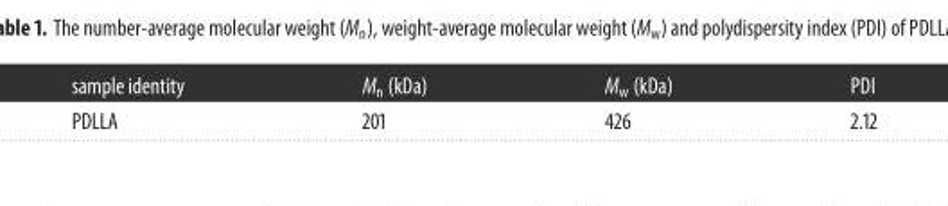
<table><thead><tr><td>sample identity</td><td>M<sub>n</sub> (kDa)</td><td>M<sub>w</sub> (kDa)</td><td>PDI</td></tr></thead><tbody><tr><td>PDLLA</td><td>201</td><td>426</td><td>2.12</td></tr></tbody></table>